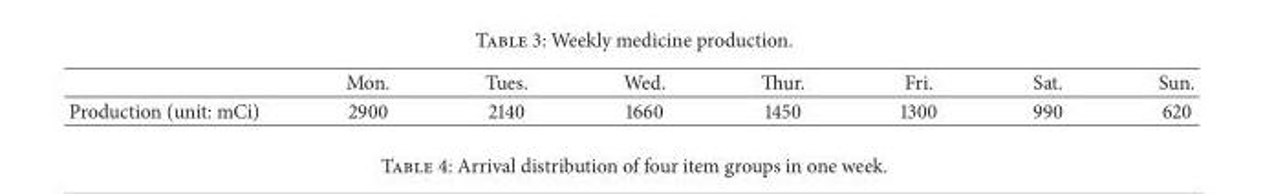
<table><thead><tr><td></td><td>Mon.</td><td>Tues.</td><td>Wed.</td><td>Thur.</td><td>Fri.</td><td>Sat.</td><td>Sun.</td></tr></thead><tbody><tr><td>Production (unit: mCi)</td><td>2900</td><td>2140</td><td>1660</td><td>1450</td><td>1300</td><td>990</td><td>620</td></tr></tbody></table>